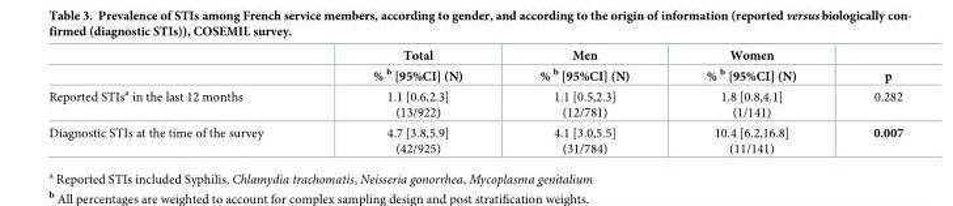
<table><thead><tr><td rowspan="2"></td><td rowspan="2">Total % <sup>b</sup> [95%CI] (N)</td><td rowspan="2">Men % <sup>b</sup> [95%CI] (N)</td><td rowspan="2">Women % <sup>b</sup> [95%CI] (N)</td><td rowspan="2">p</td></tr><tr></tr></thead><tbody><tr><td>Reported STIs<sup>a</sup> in the last 12 months</td><td>1.1 [0.6,2.3] (13/922)</td><td>1.1 [0.5,2.3] (12/781)</td><td>1.8 [0.8,4.1] (1/141)</td><td>0.282</td></tr><tr><td>Diagnostic STIs at the time of the survey</td><td>4.7 [3.8,5.9] (42/925)</td><td>4.1 [3.0,5.5] (31/784)</td><td>10.4 [6.2,16.8] (11/141)</td><td>0.007</td></tr></tbody></table>